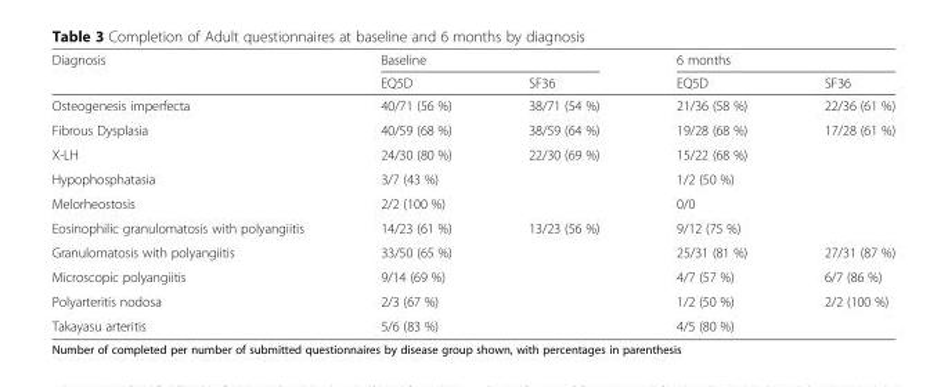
<table><thead><tr><td rowspan="2">Diagnosis</td><td colspan="2">Baseline</td><td colspan="2">6 months</td></tr><tr><td>EQ5D</td><td>SF36</td><td>EQ5D</td><td>SF36</td></tr></thead><tbody><tr><td>Osteogenesis imperfecta</td><td>40/71 (56 %)</td><td>38/71 (54 %)</td><td>21/36 (58 %)</td><td>22/36 (61 %)</td></tr><tr><td>Fibrous Dysplasia</td><td>40/59 (68 %)</td><td>38/59 (64 %)</td><td>19/28 (68 %)</td><td>17/28 (61 %)</td></tr><tr><td>X-LH</td><td>24/30 (80 %)</td><td>22/30 (69 %)</td><td colspan="2">15/22 (68 %)</td></tr><tr><td>Hypophosphatasia</td><td colspan="2">3/7 (43 %)</td><td colspan="2">1/2 (50 %)</td></tr><tr><td>Melorheostosis</td><td colspan="2">2/2 (100 %)</td><td colspan="2">0/0</td></tr><tr><td>Eosinophilic granulomatosis with polyangiitis</td><td>14/23 (61 %)</td><td>13/23 (56 %)</td><td colspan="2">9/12 (75 %)</td></tr><tr><td>Granulomatosis with polyangiitis</td><td colspan="2">33/50 (65 %)</td><td>25/31 (81 %)</td><td>27/31 (87 %)</td></tr><tr><td>Microscopic polyangiitis</td><td colspan="2">9/14 (69 %)</td><td>4/7 (57 %)</td><td>6/7 (86 %)</td></tr><tr><td>Polyarteritis nodosa</td><td colspan="2">2/3 (67 %)</td><td>1/2 (50 %)</td><td>2/2 (100 %)</td></tr><tr><td>Takayasu arteritis</td><td colspan="2">5/6 (83 %)</td><td colspan="2">4/5 (80 %)</td></tr></tbody></table>